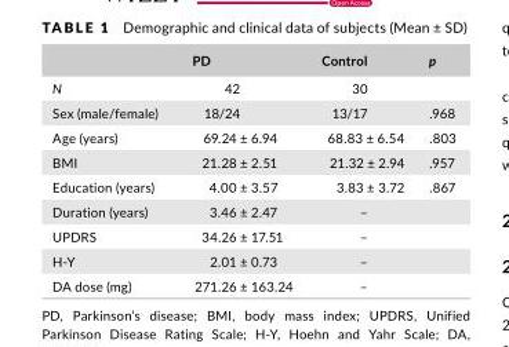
<table><thead><tr><td></td><td>PD</td><td>Control</td><td>p</td></tr></thead><tbody><tr><td>N</td><td>42</td><td>30</td><td></td></tr><tr><td>Sex (male/female)</td><td>18/24</td><td>13/17</td><td>.968</td></tr><tr><td>Age (years)</td><td>69.24 ± 6.94</td><td>68.83 ± 6.54</td><td>.803</td></tr><tr><td>BMI</td><td>21.28 ± 2.51</td><td>21.32 ± 2.94</td><td>.957</td></tr><tr><td>Education (years)</td><td>4.00 ± 3.57</td><td>3.83 ± 3.72</td><td>.867</td></tr><tr><td>Duration (years)</td><td>3.46 ± 2.47</td><td>–</td><td></td></tr><tr><td>UPDRS</td><td>34.26 ± 17.51</td><td>–</td><td></td></tr><tr><td>H- Y</td><td>2.01 ± 0.73</td><td>–</td><td></td></tr><tr><td>DA dose (mg)</td><td>271.26 ± 163.24</td><td>–</td><td></td></tr></tbody></table>